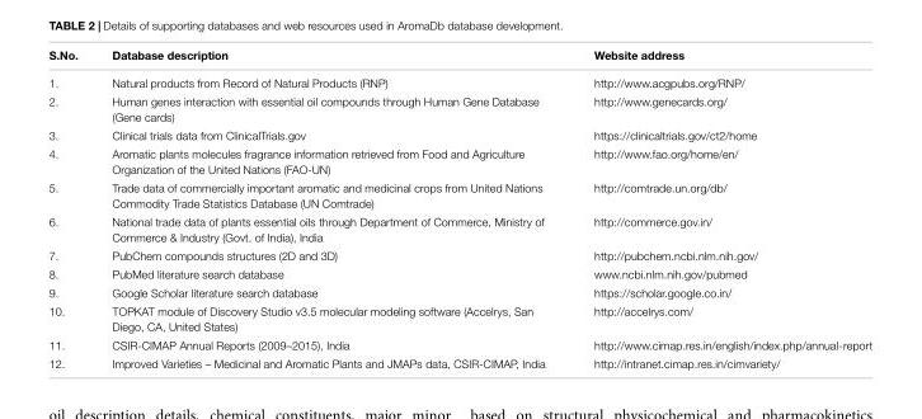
<table><thead><tr><td>S.No.</td><td>Database description</td><td>Website address</td></tr></thead><tbody><tr><td>1.</td><td>Natural products from Record of Natural Products (RNP)</td><td>http://www.acgpubs.org/RNP/</td></tr><tr><td>2.</td><td>Human genes interaction with essential oil compounds through Human Gene Database (Gene cards)</td><td>http://www.genecards.org/</td></tr><tr><td>3.</td><td>Clinical trials data from ClinicalTrials.gov</td><td>https://clinicaltrials.gov/ct2/home</td></tr><tr><td>4.</td><td>Aromatic plants molecules fragrance information retrieved from Food and Agriculture Organization of the United Nations (FAO-UN)</td><td>http://www.fao.org/home/en/</td></tr><tr><td>5.</td><td>Trade data of commercially important aromatic and medicinal crops from United Nations Commodity Trade Statistics Database (UN Comtrade)</td><td>http://comtrade.un.org/db/</td></tr><tr><td>6.</td><td>National trade data of plants essential oils through Department of Commerce, Ministry of Commerce &amp; Industry (Govt. of India), India</td><td>http://commerce.gov.in/</td></tr><tr><td>7.</td><td>PubChem compounds structures (2D and 3D)</td><td>http://pubchem.ncbi.nlm.nih.gov/</td></tr><tr><td>8.</td><td>PubMed literature search database</td><td>www.ncbi.nlm.nih.gov/pubmed</td></tr><tr><td>9.</td><td>Google Scholar literature search database</td><td>https://scholar.google.co.in/</td></tr><tr><td>10.</td><td>TOPKAT module of Discovery Studio v3.5 molecular modeling software (Accelrys, San Diego, CA, United States)</td><td>http://accelrys.com/</td></tr><tr><td>11.</td><td>CSIR-CIMAP Annual Reports (2009–2015), India</td><td>http://www.cimap.res.in/english/index.php/annual-report</td></tr><tr><td>12.</td><td>Improved Varieties – Medicinal and Aromatic Plants and JMAPs data, CSIR-CIMAP, India</td><td>http://intranet.cimap.res.in/cimvariety/</td></tr></tbody></table>